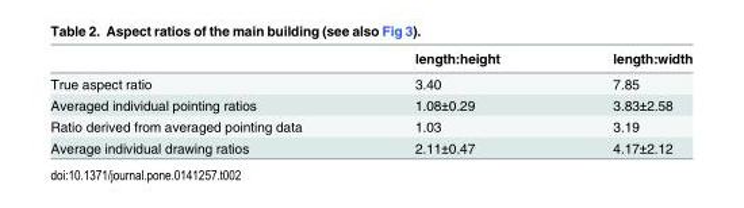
<table><thead><tr><td></td><td>length:height</td><td>length:width</td></tr></thead><tbody><tr><td>True aspect ratio</td><td>3.40</td><td>7.85</td></tr><tr><td>Averaged individual pointing ratios</td><td>1.08±0.29</td><td>3.83±2.58</td></tr><tr><td>Ratio derived from averaged pointing data</td><td>1.03</td><td>3.19</td></tr><tr><td>Average individual drawing ratios</td><td>2.11±0.47</td><td>4.17±2.12</td></tr></tbody></table>